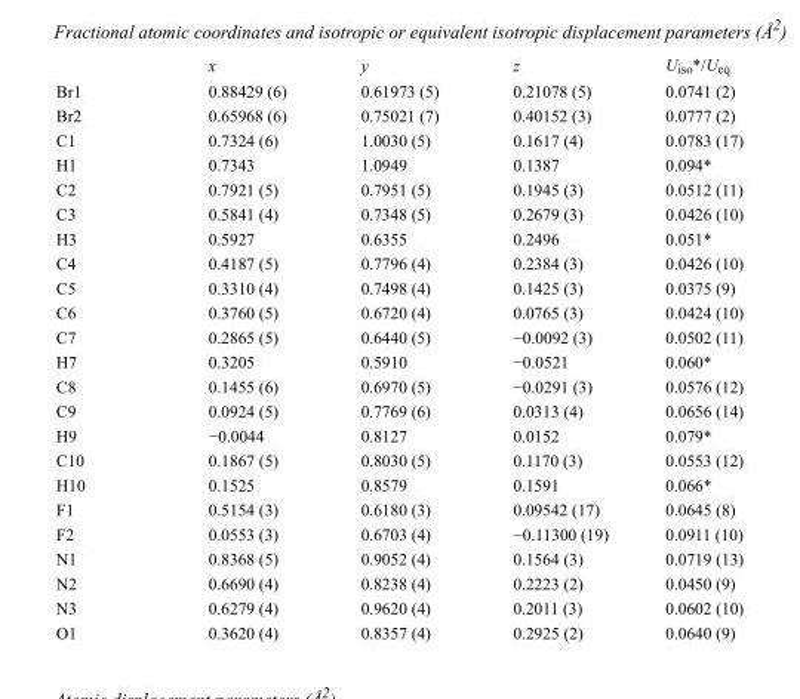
<table><thead><tr><td></td><td>x</td><td>y</td><td>z</td><td>U<sub>iso</sub>*/U<sub>eq</sub></td></tr></thead><tbody><tr><td>Br1</td><td>0.88429 (6)</td><td>0.61973 (5)</td><td>0.21078 (5)</td><td>0.0741 (2)</td></tr><tr><td>Br2</td><td>0.65968 (6)</td><td>0.75021 (7)</td><td>0.40152 (3)</td><td>0.0777 (2)</td></tr><tr><td>C1</td><td>0.7324 (6)</td><td>1.0030 (5)</td><td>0.1617 (4)</td><td>0.0783 (17)</td></tr><tr><td>H1</td><td>0.7343</td><td>1.0949</td><td>0.1387</td><td>0.094*</td></tr><tr><td>C2</td><td>0.7921 (5)</td><td>0.7951 (5)</td><td>0.1945 (3)</td><td>0.0512 (11)</td></tr><tr><td>C3</td><td>0.5841 (4)</td><td>0.7348 (5)</td><td>0.2679 (3)</td><td>0.0426 (10)</td></tr><tr><td>H3</td><td>0.5927</td><td>0.6355</td><td>0.2496</td><td>0.051*</td></tr><tr><td>C4</td><td>0.4187 (5)</td><td>0.7796 (4)</td><td>0.2384 (3)</td><td>0.0426 (10)</td></tr><tr><td>C5</td><td>0.3310 (4)</td><td>0.7498 (4)</td><td>0.1425 (3)</td><td>0.0375 (9)</td></tr><tr><td>C6</td><td>0.3760 (5)</td><td>0.6720 (4)</td><td>0.0765 (3)</td><td>0.0424 (10)</td></tr><tr><td>C7</td><td>0.2865 (5)</td><td>0.6440 (5)</td><td>−0.0092 (3)</td><td>0.0502 (11)</td></tr><tr><td>H7</td><td>0.3205</td><td>0.5910</td><td>−0.0521</td><td>0.060*</td></tr><tr><td>C8</td><td>0.1455 (6)</td><td>0.6970 (5)</td><td>−0.0291 (3)</td><td>0.0576 (12)</td></tr><tr><td>C9</td><td>0.0924 (5)</td><td>0.7769 (6)</td><td>0.0313 (4)</td><td>0.0656 (14)</td></tr><tr><td>H9</td><td>−0.0044</td><td>0.8127</td><td>0.0152</td><td>0.079*</td></tr><tr><td>C10</td><td>0.1867 (5)</td><td>0.8030 (5)</td><td>0.1170 (3)</td><td>0.0553 (12)</td></tr><tr><td>H10</td><td>0.1525</td><td>0.8579</td><td>0.1591</td><td>0.066*</td></tr><tr><td>F1</td><td>0.5154 (3)</td><td>0.6180 (3)</td><td>0.09542 (17)</td><td>0.0645 (8)</td></tr><tr><td>F2</td><td>0.0553 (3)</td><td>0.6703 (4)</td><td>−0.11300 (19)</td><td>0.0911 (10)</td></tr><tr><td>N1</td><td>0.8368 (5)</td><td>0.9052 (4)</td><td>0.1564 (3)</td><td>0.0719 (13)</td></tr><tr><td>N2</td><td>0.6690 (4)</td><td>0.8238 (4)</td><td>0.2223 (2)</td><td>0.0450 (9)</td></tr><tr><td>N3</td><td>0.6279 (4)</td><td>0.9620 (4)</td><td>0.2011 (3)</td><td>0.0602 (10)</td></tr><tr><td>O1</td><td>0.3620 (4)</td><td>0.8357 (4)</td><td>0.2925 (2)</td><td>0.0640 (9)</td></tr></tbody></table>